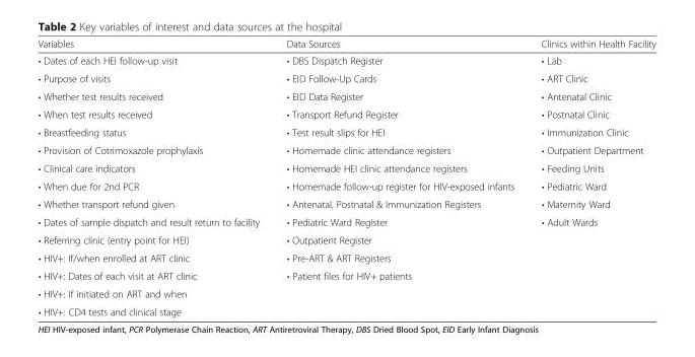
<table><thead><tr><td>Variables</td><td>Data Sources</td><td>Clinics within Health Facility</td></tr></thead><tbody><tr><td>• Dates of each HEI follow-up visit</td><td>• DBS Dispatch Register</td><td>• Lab</td></tr><tr><td>• Purpose of visits</td><td>• EID Follow-Up Cards</td><td>• ART Clinic</td></tr><tr><td>• Whether test results received</td><td>• EID Data Register</td><td>• Antenatal Clinic</td></tr><tr><td>• When test results received</td><td>• Transport Refund Register</td><td>• Postnatal Clinic</td></tr><tr><td>• Breastfeeding status</td><td>• Test result slips for HEI</td><td>• Immunization Clinic</td></tr><tr><td>• Provision of Cotrimoxazole prophylaxis</td><td>• Homemade clinic attendance registers</td><td>• Outpatient Department</td></tr><tr><td>• Clinical care indicators</td><td>• Homemade HEI clinic attendance registers</td><td>• Feeding Units</td></tr><tr><td>• When due for 2nd PCR</td><td>• Homemade follow-up register for HIV-exposed infants</td><td>• Pediatric Ward</td></tr><tr><td>• Whether transport refund given</td><td>• Antenatal, Postnatal &amp; Immunization Registers</td><td>• Maternity Ward</td></tr><tr><td>• Dates of sample dispatch and result return to facility</td><td>• Pediatric Ward Register</td><td>• Adult Wards</td></tr><tr><td>• Referring clinic (entry point for HEI)</td><td>• Outpatient Register</td><td></td></tr><tr><td>• HIV+: If/when enrolled at ART clinic</td><td>• Pre-ART &amp; ART Registers</td><td></td></tr><tr><td>• HIV+: Dates of each visit at ART clinic</td><td>• Patient files for HIV+ patients</td><td></td></tr><tr><td colspan="3">• HIV+: If initiated on ART and when</td></tr><tr><td>• HIV+: CD4 tests and clinical stage</td><td></td><td></td></tr></tbody></table>